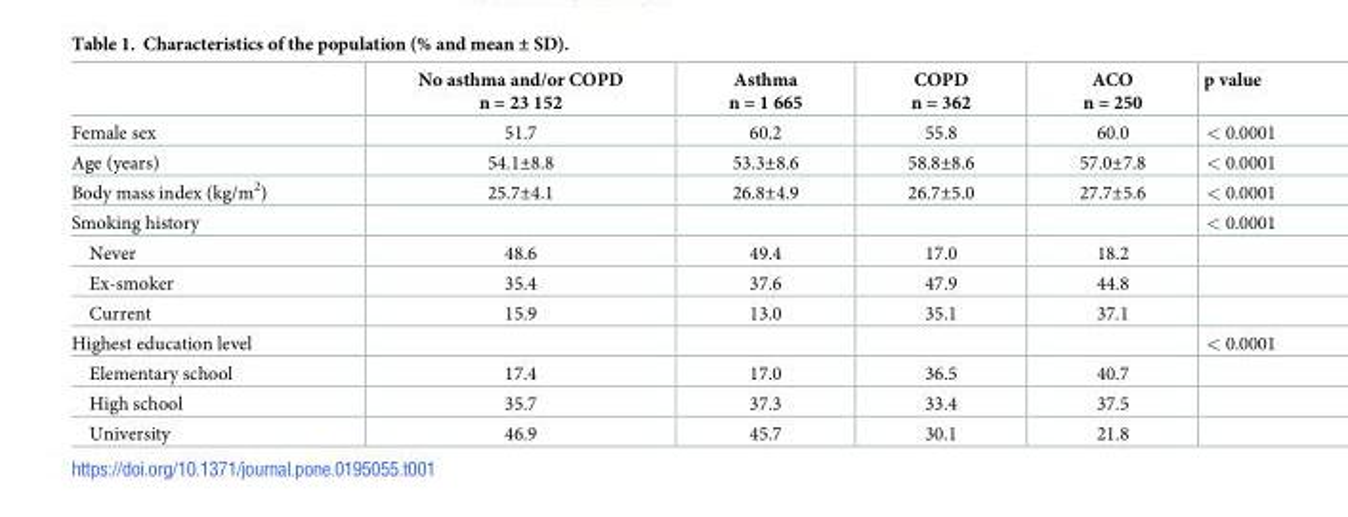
<table><thead><tr><td></td><td>No asthma and/or COPD n = 23 152</td><td>Asthma n = 1 665</td><td>COPD n = 362</td><td>ACO n = 250</td><td>p value</td></tr></thead><tbody><tr><td>Female sex</td><td>51.7</td><td>60.2</td><td>55.8</td><td>60.0</td><td>&lt; 0.0001</td></tr><tr><td>Age (years)</td><td>54.1±8.8</td><td>53.3±8.6</td><td>58.8±8.6</td><td>57.0±7.8</td><td>&lt; 0.0001</td></tr><tr><td>Body mass index (kg/m<sup>2</sup>)</td><td>25.7±4.1</td><td>26.8±4.9</td><td>26.7±5.0</td><td>27.7±5.6</td><td>&lt; 0.0001</td></tr><tr><td>Smoking history</td><td></td><td></td><td></td><td></td><td>&lt; 0.0001</td></tr><tr><td>Never</td><td>48.6</td><td>49.4</td><td>17.0</td><td>18.2</td><td></td></tr><tr><td>Ex-smoker</td><td>35.4</td><td>37.6</td><td>47.9</td><td>44.8</td><td></td></tr><tr><td>Current</td><td>15.9</td><td>13.0</td><td>35.1</td><td>37.1</td><td></td></tr><tr><td>Highest education level</td><td></td><td></td><td></td><td></td><td>&lt; 0.0001</td></tr><tr><td>Elementary school</td><td>17.4</td><td>17.0</td><td>36.5</td><td>40.7</td><td></td></tr><tr><td>High school</td><td>35.7</td><td>37.3</td><td>33.4</td><td>37.5</td><td></td></tr><tr><td>University</td><td>46.9</td><td>45.7</td><td>30.1</td><td>21.8</td><td></td></tr></tbody></table>